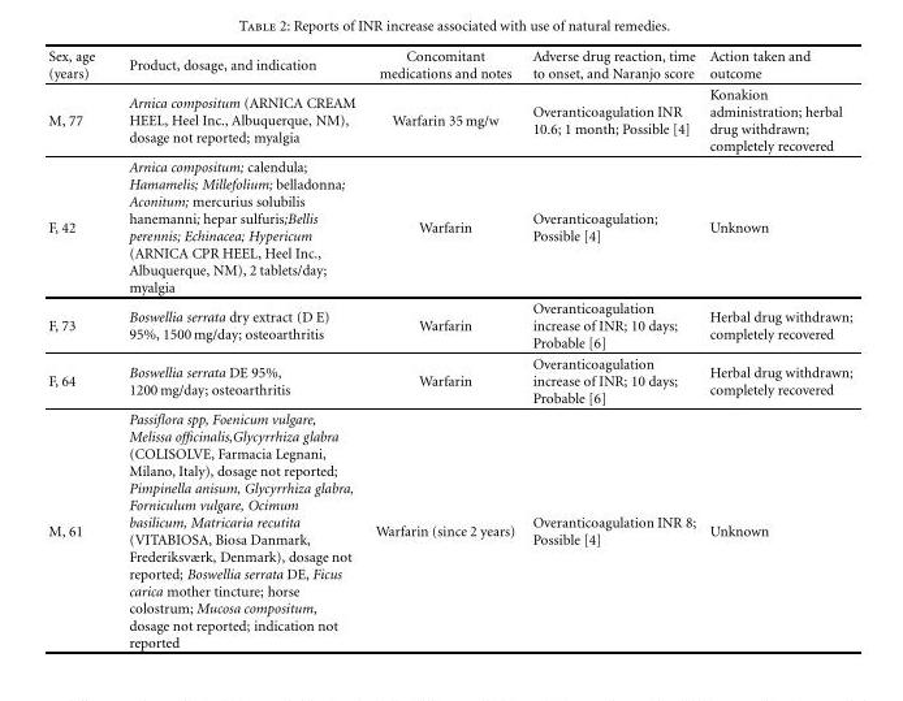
<table><thead><tr><td>Sex, age (years)</td><td>Product, dosage, and indication</td><td>Concomitant medications and notes</td><td>Adverse drug reaction, time to onset, and Naranjo score</td><td>Action taken and outcome</td></tr></thead><tbody><tr><td>M, 77</td><td>Arnica compositum (ARNICA CREAM HEEL, Heel Inc., Albuquerque, NM), dosage not reported; myalgia</td><td>Warfarin 35 mg/w</td><td>Overanticoagulation INR 10.6; 1 month; Possible [4]</td><td>Konakion administration; herbal drug withdrawn; completely recovered</td></tr><tr><td>F, 42</td><td>Arnica compositum; calendula; Hamamelis; Millefolium; belladonna; Aconitum; mercurius solubilis hanemanni; hepar sulfuris;Bellis perennis; Echinacea; Hypericum (ARNICA CPR HEEL, Heel Inc., Albuquerque, NM), 2 tablets/day; myalgia</td><td>Warfarin</td><td>Overanticoagulation; Possible [4]</td><td>Unknown</td></tr><tr><td>F, 73</td><td>Boswellia serrata dry extract (D E) 95%, 1500 mg/day; osteoarthritis</td><td>Warfarin</td><td>Overanticoagulation increase of INR; 10 days; Probable [6]</td><td>Herbal drug withdrawn; completely recovered</td></tr><tr><td>F, 64</td><td>Boswellia serrata DE 95%, 1200 mg/day; osteoarthritis</td><td>Warfarin</td><td>Overanticoagulation increase of INR; 10 days; Probable [6]</td><td>Herbal drug withdrawn; completely recovered</td></tr><tr><td>M, 61</td><td>Passiflora spp, Foenicum vulgare, Melissa officinalis,Glycyrrhiza glabra (COLISOLVE, Farmacia Legnani, Milano, Italy), dosage not reported; Pimpinella anisum, Glycyrrhiza glabra, Forniculum vulgare, Ocimum basilicum, Matricaria recutita (VITABIOSA, Biosa Danmark, Frederiksværk, Denmark), dosage not reported; Boswellia serrata DE, Ficus carica mother tincture; horse colostrum; Mucosa compositum, dosage not reported; indication not reported</td><td>Warfarin (since 2 years)</td><td>Overanticoagulation INR 8; Possible [4]</td><td>Unknown</td></tr></tbody></table>